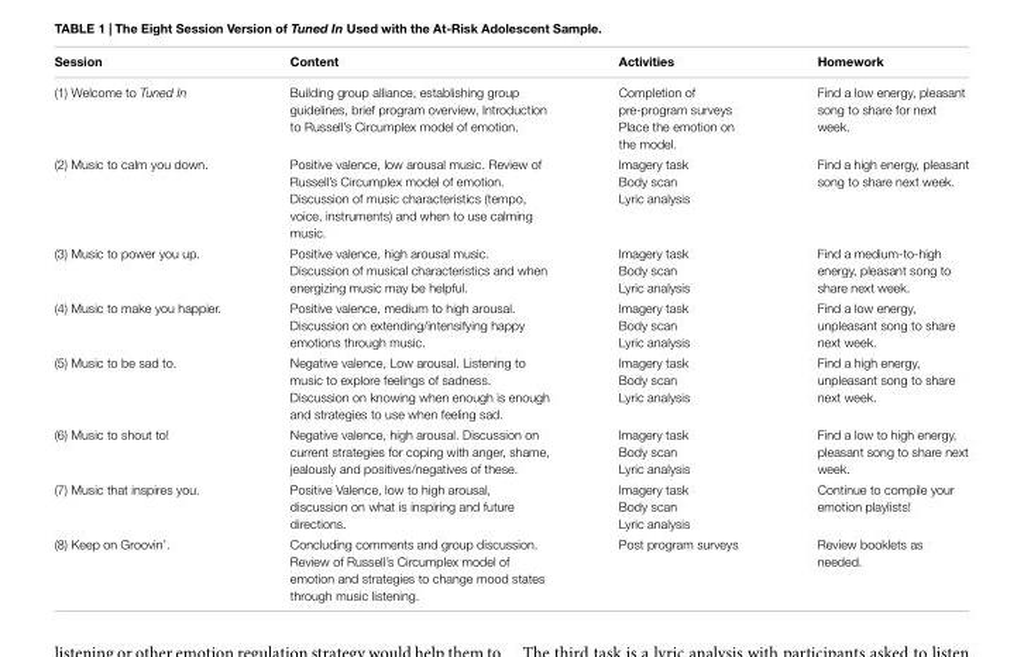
<table><thead><tr><td>Session</td><td>Content</td><td>Activities</td><td>Homework</td></tr></thead><tbody><tr><td>(1) Welcome to Tuned In</td><td>Building group alliance, establishing group guidelines, brief program overview, Introduction to Russell’s Circumplex model of emotion.</td><td>Completion of pre-program surveys Place the emotion on the model.</td><td>Find a low energy, pleasant song to share for next week.</td></tr><tr><td>(2) Music to calm you down.</td><td>Positive valence, low arousal music. Review of Russell’s Circumplex model of emotion. Discussion of music characteristics (tempo, voice, instruments) and when to use calming music.</td><td>Imagery task Body scan Lyric analysis</td><td>Find a high energy, pleasant song to share next week.</td></tr><tr><td>(3) Music to power you up.</td><td>Positive valence, high arousal music. Discussion of musical characteristics and when energizing music may be helpful.</td><td>Imagery task Body scan Lyric analysis</td><td>Find a medium-to-high energy, pleasant song to share next week.</td></tr><tr><td>(4) Music to make you happier.</td><td>Positive valence, medium to high arousal. Discussion on extending/intensifying happy emotions through music.</td><td>Imagery task Body scan Lyric analysis</td><td>Find a low energy, unpleasant song to share next week.</td></tr><tr><td>(5) Music to be sad to.</td><td>Negative valence, Low arousal. Listening to music to explore feelings of sadness. Discussion on knowing when enough is enough and strategies to use when feeling sad.</td><td>Imagery task Body scan Lyric analysis</td><td>Find a high energy, unpleasant song to share next week.</td></tr><tr><td>(6) Music to shout to!</td><td>Negative valence, high arousal. Discussion on current strategies for coping with anger, shame, jealously and positives/negatives of these.</td><td>Imagery task Body scan Lyric analysis</td><td>Find a low to high energy, pleasant song to share next week.</td></tr><tr><td>(7) Music that inspires you.</td><td>Positive Valence, low to high arousal, discussion on what is inspiring and future directions.</td><td>Imagery task Body scan Lyric analysis</td><td>Continue to compile your emotion playlists!</td></tr><tr><td>(8) Keep on Groovin’.</td><td>Concluding comments and group discussion. Review of Russell’s Circumplex model of emotion and strategies to change mood states through music listening.</td><td>Post program surveys</td><td>Review booklets as needed.</td></tr></tbody></table>